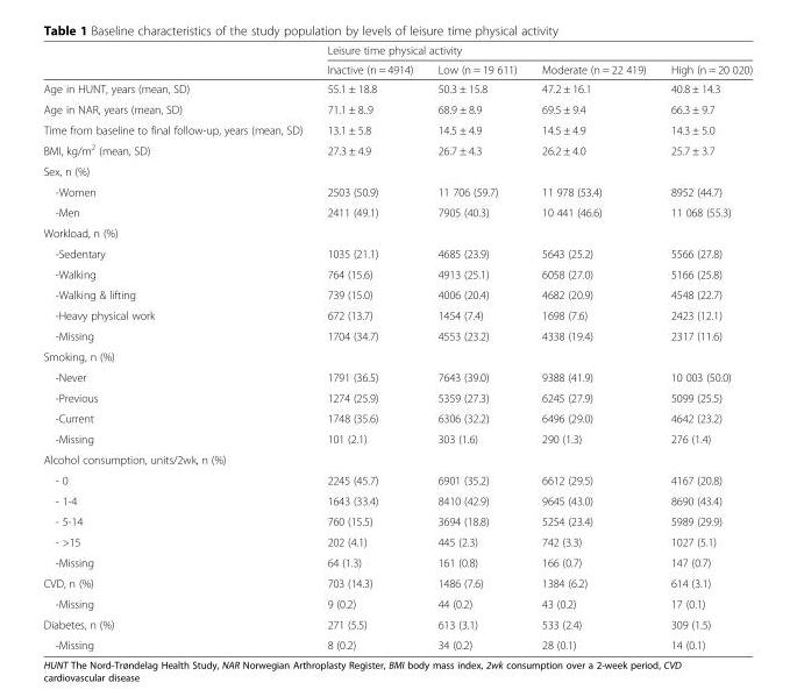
<table><thead><tr><td rowspan="2"></td><td colspan="4">Leisure time physical activity</td></tr><tr><td>Inactive (n = 4914)</td><td>Low (n = 19 611)</td><td>Moderate (n = 22 419)</td><td>High (n = 20 020)</td></tr></thead><tbody><tr><td>Age in HUNT, years (mean, SD)</td><td>55.1 ± 18.8</td><td>50.3 ± 15.8</td><td>47.2 ± 16.1</td><td>40.8 ± 14.3</td></tr><tr><td>Age in NAR, years (mean, SD)</td><td>71.1 ± 8..9</td><td>68.9 ± 8.9</td><td>69.5 ± 9.4</td><td>66.3 ± 9.7</td></tr><tr><td>Time from baseline to final follow-up, years (mean, SD)</td><td>13.1 ± 5.8</td><td>14.5 ± 4.9</td><td>14.5 ± 4.9</td><td>14.3 ± 5.0</td></tr><tr><td>BMI, kg/m<sup>2</sup> (mean, SD)</td><td>27.3 ± 4.9</td><td>26.7 ± 4.3</td><td>26.2 ± 4.0</td><td>25.7 ± 3.7</td></tr><tr><td colspan="5">Sex, n (%)</td></tr><tr><td>-Women</td><td>2503 (50.9)</td><td>11 706 (59.7)</td><td>11 978 (53.4)</td><td>8952 (44.7)</td></tr><tr><td>-Men</td><td>2411 (49.1)</td><td>7905 (40.3)</td><td>10 441 (46.6)</td><td>11 068 (55.3)</td></tr><tr><td colspan="5">Workload, n (%)</td></tr><tr><td>-Sedentary</td><td>1035 (21.1)</td><td>4685 (23.9)</td><td>5643 (25.2)</td><td>5566 (27.8)</td></tr><tr><td>-Walking</td><td>764 (15.6)</td><td>4913 (25.1)</td><td>6058 (27.0)</td><td>5166 (25.8)</td></tr><tr><td>-Walking &amp; lifting</td><td>739 (15.0)</td><td>4006 (20.4)</td><td>4682 (20.9)</td><td>4548 (22.7)</td></tr><tr><td>-Heavy physical work</td><td>672 (13.7)</td><td>1454 (7.4)</td><td>1698 (7.6)</td><td>2423 (12.1)</td></tr><tr><td>-Missing</td><td>1704 (34.7)</td><td>4553 (23.2)</td><td>4338 (19.4)</td><td>2317 (11.6)</td></tr><tr><td colspan="5">Smoking, n (%)</td></tr><tr><td>-Never</td><td>1791 (36.5)</td><td>7643 (39.0)</td><td>9388 (41.9)</td><td>10 003 (50.0)</td></tr><tr><td>-Previous</td><td>1274 (25.9)</td><td>5359 (27.3)</td><td>6245 (27.9)</td><td>5099 (25.5)</td></tr><tr><td>-Current</td><td>1748 (35.6)</td><td>6306 (32.2)</td><td>6496 (29.0)</td><td>4642 (23.2)</td></tr><tr><td>-Missing</td><td>101 (2.1)</td><td>303 (1.6)</td><td>290 (1.3)</td><td>276 (1.4)</td></tr><tr><td colspan="5">Alcohol consumption, units/2wk, n (%)</td></tr><tr><td>- 0</td><td>2245 (45.7)</td><td>6901 (35.2)</td><td>6612 (29.5)</td><td>4167 (20.8)</td></tr><tr><td>- 1-4</td><td>1643 (33.4)</td><td>8410 (42.9)</td><td>9645 (43.0)</td><td>8690 (43.4)</td></tr><tr><td>- 5-14</td><td>760 (15.5)</td><td>3694 (18.8)</td><td>5254 (23.4)</td><td>5989 (29.9)</td></tr><tr><td>- &gt;15</td><td>202 (4.1)</td><td>445 (2.3)</td><td>742 (3.3)</td><td>1027 (5.1)</td></tr><tr><td>-Missing</td><td>64 (1.3)</td><td>161 (0.8)</td><td>166 (0.7)</td><td>147 (0.7)</td></tr><tr><td>CVD, n (%)</td><td>703 (14.3)</td><td>1486 (7.6)</td><td>1384 (6.2)</td><td>614 (3.1)</td></tr><tr><td>-Missing</td><td>9 (0.2)</td><td>44 (0.2)</td><td>43 (0.2)</td><td>17 (0.1)</td></tr><tr><td>Diabetes, n (%)</td><td>271 (5.5)</td><td>613 (3.1)</td><td>533 (2.4)</td><td>309 (1.5)</td></tr><tr><td>-Missing</td><td>8 (0.2)</td><td>34 (0.2)</td><td>28 (0.1)</td><td>14 (0.1)</td></tr></tbody></table>